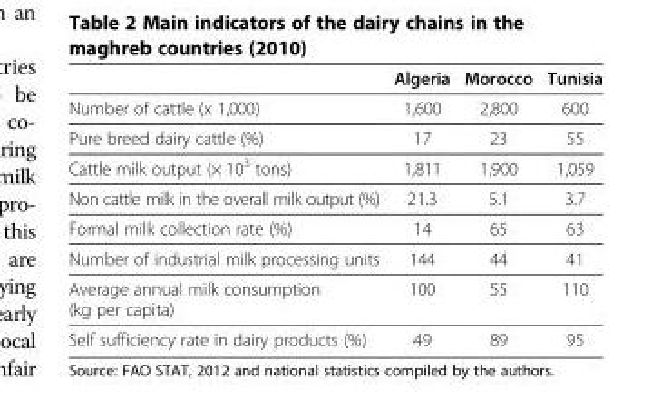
<table><thead><tr><td></td><td>Algeria</td><td>Morocco</td><td>Tunisia</td></tr></thead><tbody><tr><td>Number of cattle (x 1,000)</td><td>1,600</td><td>2,800</td><td>600</td></tr><tr><td>Pure breed dairy cattle (%)</td><td>17</td><td>23</td><td>55</td></tr><tr><td>Cattle milk output (× 10<sup>3</sup> tons)</td><td>1,811</td><td>1,900</td><td>1,059</td></tr><tr><td>Non cattle milk in the overall milk output (%)</td><td>21.3</td><td>5.1</td><td>3.7</td></tr><tr><td>Formal milk collection rate (%)</td><td>14</td><td>65</td><td>63</td></tr><tr><td>Number of industrial milk processing units</td><td>144</td><td>44</td><td>41</td></tr><tr><td>Average annual milk consumption (kg per capita)</td><td>100</td><td>55</td><td>110</td></tr><tr><td>Self sufficiency rate in dairy products (%)</td><td>49</td><td>89</td><td>95</td></tr></tbody></table>